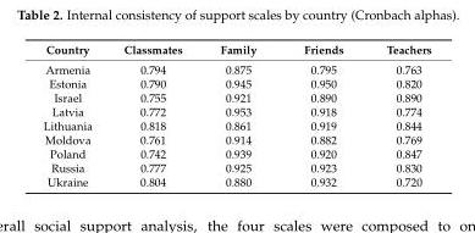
<table><thead><tr><td>Country</td><td>Classmates</td><td>Family</td><td>Friends</td><td>Teachers</td></tr></thead><tbody><tr><td>Armenia</td><td>0.794</td><td>0.875</td><td>0.795</td><td>0.763</td></tr><tr><td>Estonia</td><td>0.790</td><td>0.945</td><td>0.950</td><td>0.820</td></tr><tr><td>Israel</td><td>0.755</td><td>0.921</td><td>0.890</td><td>0.890</td></tr><tr><td>Latvia</td><td>0.772</td><td>0.953</td><td>0.918</td><td>0.774</td></tr><tr><td>Lithuania</td><td>0.818</td><td>0.861</td><td>0.919</td><td>0.844</td></tr><tr><td>Moldova</td><td>0.761</td><td>0.914</td><td>0.882</td><td>0.769</td></tr><tr><td>Poland</td><td>0.742</td><td>0.939</td><td>0.920</td><td>0.847</td></tr><tr><td>Russia</td><td>0.777</td><td>0.925</td><td>0.923</td><td>0.830</td></tr><tr><td>Ukraine</td><td>0.804</td><td>0.880</td><td>0.932</td><td>0.720</td></tr></tbody></table>